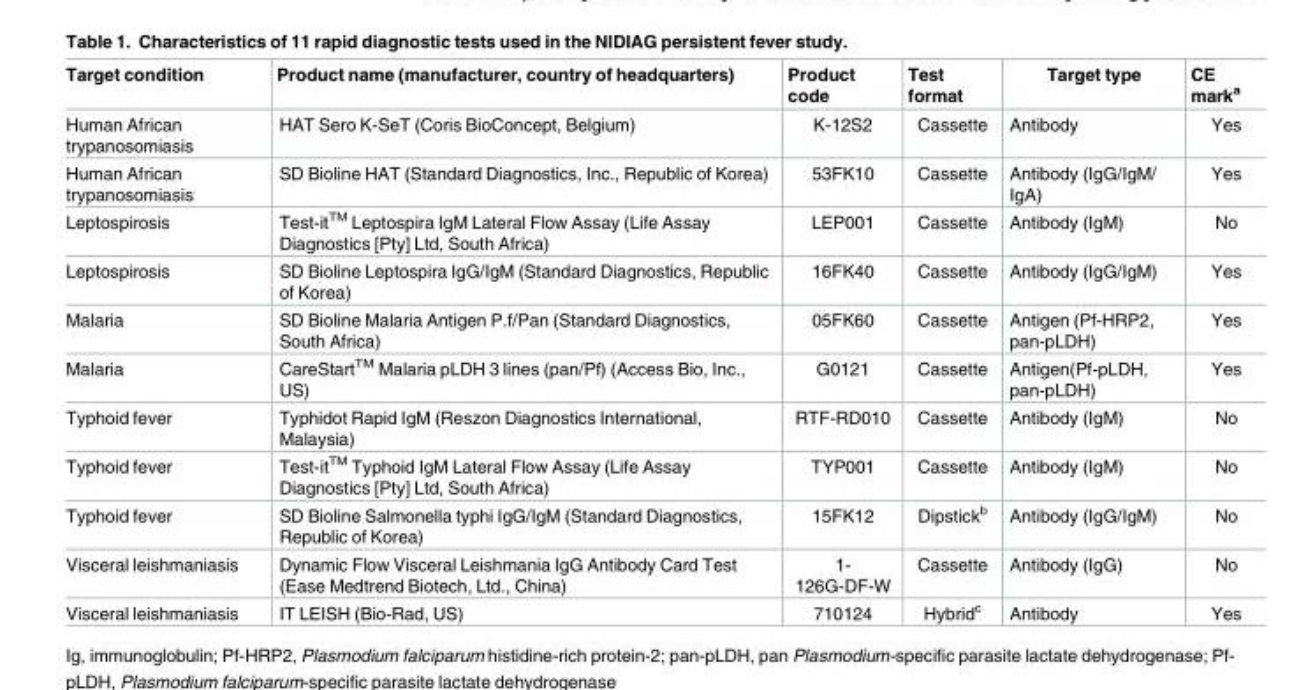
<table><thead><tr><td>Target condition</td><td>Product name (manufacturer, country of headquarters)</td><td>Product code</td><td>Test format</td><td>Target type</td><td>CE mark<sup>a</sup></td></tr></thead><tbody><tr><td>Human African trypanosomiasis</td><td>HAT Sero K-SeT (Coris BioConcept, Belgium)</td><td>K-12S2</td><td>Cassette</td><td>Antibody</td><td>Yes</td></tr><tr><td>Human African trypanosomiasis</td><td>SD Bioline HAT (Standard Diagnostics, Inc., Republic of Korea)</td><td>53FK10</td><td>Cassette</td><td>Antibody (IgG/IgM/ IgA)</td><td>Yes</td></tr><tr><td>Leptospirosis</td><td>Test-it<sup>TM</sup> Leptospira IgM Lateral Flow Assay (Life Assay Diagnostics [Pty] Ltd, South Africa)</td><td>LEP001</td><td>Cassette</td><td>Antibody (IgM)</td><td>No</td></tr><tr><td>Leptospirosis</td><td>SD Bioline Leptospira IgG/IgM (Standard Diagnostics, Republic of Korea)</td><td>16FK40</td><td>Cassette</td><td>Antibody (IgG/IgM)</td><td>Yes</td></tr><tr><td>Malaria</td><td>SD Bioline Malaria Antigen P.f/Pan (Standard Diagnostics, South Africa)</td><td>05FK60</td><td>Cassette</td><td>Antigen (Pf-HRP2, pan-pLDH)</td><td>Yes</td></tr><tr><td>Malaria</td><td>CareStart<sup>TM</sup> Malaria pLDH 3 lines (pan/Pf) (Access Bio, Inc., US)</td><td>G0121</td><td>Cassette</td><td>Antigen(Pf-pLDH, pan-pLDH)</td><td>Yes</td></tr><tr><td>Typhoid fever</td><td>Typhidot Rapid IgM (Reszon Diagnostics International, Malaysia)</td><td>RTF-RD010</td><td>Cassette</td><td>Antibody (IgM)</td><td>No</td></tr><tr><td>Typhoid fever</td><td>Test-it<sup>TM</sup> Typhoid IgM Lateral Flow Assay (Life Assay Diagnostics [Pty] Ltd, South Africa)</td><td>TYP001</td><td>Cassette</td><td>Antibody (IgM)</td><td>No</td></tr><tr><td>Typhoid fever</td><td>SD Bioline Salmonella typhi IgG/IgM (Standard Diagnostics, Republic of Korea)</td><td>15FK12</td><td>Dipstick<sup>b</sup></td><td>Antibody (IgG/IgM)</td><td>No</td></tr><tr><td>Visceral leishmaniasis</td><td>Dynamic Flow Visceral Leishmania IgG Antibody Card Test (Ease Medtrend Biotech, Ltd., China)</td><td>1- 126G-DF-W</td><td>Cassette</td><td>Antibody (IgG)</td><td>No</td></tr><tr><td>Visceral leishmaniasis</td><td>IT LEISH (Bio-Rad, US)</td><td>710124</td><td>Hybrid<sup>c</sup></td><td>Antibody</td><td>Yes</td></tr></tbody></table>